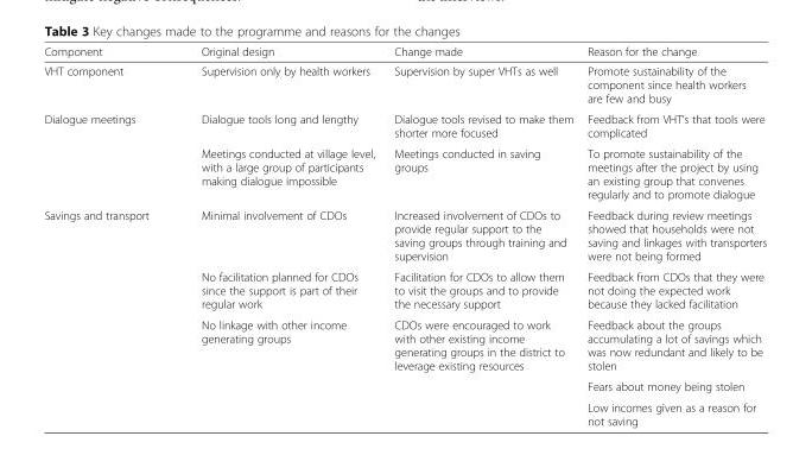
<table><thead><tr><td>Component</td><td>Original design</td><td>Change made</td><td>Reason for the change</td></tr></thead><tbody><tr><td>VHT component</td><td>Supervision only by health workers</td><td>Supervision by super VHTs as well</td><td>Promote sustainability of the component since health workers are few and busy</td></tr><tr><td rowspan="2">Dialogue meetings</td><td>Dialogue tools long and lengthy</td><td>Dialogue tools revised to make them shorter more focused</td><td>Feedback from VHT’s that tools were complicated</td></tr><tr><td>Meetings conducted at village level, with a large group of participants making dialogue impossible</td><td>Meetings conducted in saving groups</td><td>To promote sustainability of the meetings after the project by using an existing group that convenes regularly and to promote dialogue</td></tr><tr><td rowspan="5">Savings and transport</td><td>Minimal involvement of CDOs</td><td>Increased involvement of CDOs to provide regular support to the saving groups through training and supervision</td><td>Feedback during review meetings showed that households were not saving and linkages with transporters were not being formed</td></tr><tr><td>No facilitation planned for CDOs since the support is part of their regular work</td><td>Facilitation for CDOs to allow them to visit the groups and to provide the necessary support</td><td>Feedback from CDOs that they were not doing the expected work because they lacked facilitation</td></tr><tr><td rowspan="3">No linkage with other income generating groups</td><td rowspan="3">CDOs were encouraged to work with other existing income generating groups in the district to leverage existing resources</td><td>Feedback about the groups accumulating a lot of savings which was now redundant and likely to be stolen</td></tr><tr><td>Fears about money being stolen</td></tr><tr><td>Low incomes given as a reason for not saving</td></tr></tbody></table>